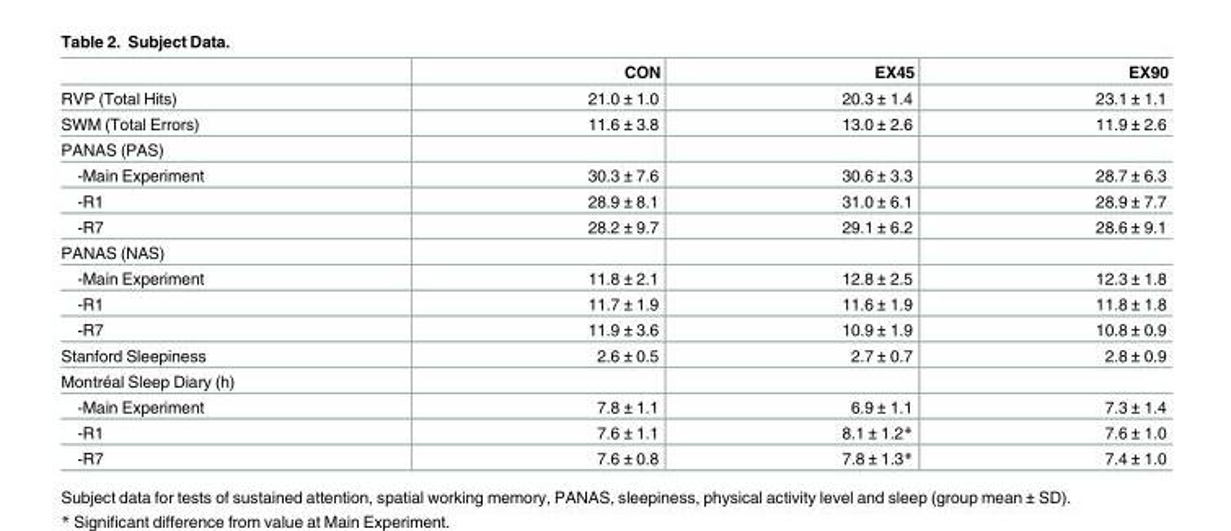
<table><thead><tr><td></td><td>CON</td><td>EX45</td><td>EX90</td></tr></thead><tbody><tr><td>RVP (Total Hits)</td><td>21.0 ± 1.0</td><td>20.3 ± 1.4</td><td>23.1 ± 1.1</td></tr><tr><td>SWM (Total Errors)</td><td>11.6 ± 3.8</td><td>13.0 ± 2.6</td><td>11.9 ± 2.6</td></tr><tr><td colspan="4">PANAS (PAS)</td></tr><tr><td>-Main Experiment</td><td>30.3 ± 7.6</td><td>30.6 ± 3.3</td><td>28.7 ± 6.3</td></tr><tr><td>-R1</td><td>28.9 ± 8.1</td><td>31.0 ± 6.1</td><td>28.9 ± 7.7</td></tr><tr><td>-R7</td><td>28.2 ± 9.7</td><td>29.1 ± 6.2</td><td>28.6 ± 9.1</td></tr><tr><td colspan="4">PANAS (NAS)</td></tr><tr><td>-Main Experiment</td><td>11.8 ± 2.1</td><td>12.8 ± 2.5</td><td>12.3 ± 1.8</td></tr><tr><td>-R1</td><td>11.7 ± 1.9</td><td>11.6 ± 1.9</td><td>11.8 ± 1.8</td></tr><tr><td>-R7</td><td>11.9 ± 3.6</td><td>10.9 ± 1.9</td><td>10.8 ± 0.9</td></tr><tr><td>Stanford Sleepiness</td><td>2.6 ± 0.5</td><td>2.7 ± 0.7</td><td>2.8 ± 0.9</td></tr><tr><td colspan="4">Montréal Sleep Diary (h)</td></tr><tr><td>-Main Experiment</td><td>7.8 ± 1.1</td><td>6.9 ± 1.1</td><td>7.3 ± 1.4</td></tr><tr><td>-R1</td><td>7.6 ± 1.1</td><td>8.1 ± 1.2*</td><td>7.6 ± 1.0</td></tr><tr><td>-R7</td><td>7.6 ± 0.8</td><td>7.8 ± 1.3*</td><td>7.4 ± 1.0</td></tr></tbody></table>